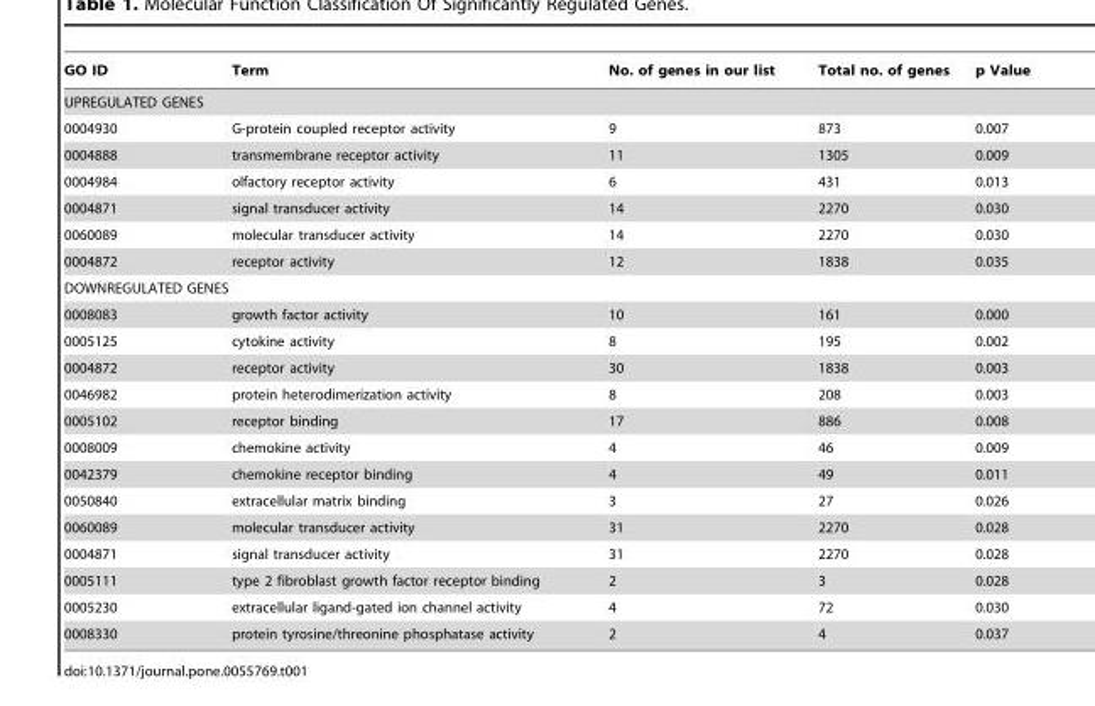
<table><thead><tr><td>GO ID</td><td>Term</td><td>No. of genes in our list</td><td>Total no. of genes</td><td>p Value</td></tr></thead><tbody><tr><td colspan="5">UPREGULATED GENES</td></tr><tr><td>0004930</td><td>G-protein coupled receptor activity</td><td>9</td><td>873</td><td>0.007</td></tr><tr><td>0004888</td><td>transmembrane receptor activity</td><td>11</td><td>1305</td><td>0.009</td></tr><tr><td>0004984</td><td>olfactory receptor activity</td><td>6</td><td>431</td><td>0.013</td></tr><tr><td>0004871</td><td>signal transducer activity</td><td>14</td><td>2270</td><td>0.030</td></tr><tr><td>0060089</td><td>molecular transducer activity</td><td>14</td><td>2270</td><td>0.030</td></tr><tr><td>0004872</td><td>receptor activity</td><td>12</td><td>1838</td><td>0.035</td></tr><tr><td colspan="5">DOWNREGULATED GENES</td></tr><tr><td>0008083</td><td>growth factor activity</td><td>10</td><td>161</td><td>0.000</td></tr><tr><td>0005125</td><td>cytokine activity</td><td>8</td><td>195</td><td>0.002</td></tr><tr><td>0004872</td><td>receptor activity</td><td>30</td><td>1838</td><td>0.003</td></tr><tr><td>0046982</td><td>protein heterodimerization activity</td><td>8</td><td>208</td><td>0.003</td></tr><tr><td>0005102</td><td>receptor binding</td><td>17</td><td>886</td><td>0.008</td></tr><tr><td>0008009</td><td>chemokine activity</td><td>4</td><td>46</td><td>0.009</td></tr><tr><td>0042379</td><td>chemokine receptor binding</td><td>4</td><td>49</td><td>0.011</td></tr><tr><td>0050840</td><td>extracellular matrix binding</td><td>3</td><td>27</td><td>0.026</td></tr><tr><td>0060089</td><td>molecular transducer activity</td><td>31</td><td>2270</td><td>0.028</td></tr><tr><td>0004871</td><td>signal transducer activity</td><td>31</td><td>2270</td><td>0.028</td></tr><tr><td>0005111</td><td>type 2 fibroblast growth factor receptor binding</td><td>2</td><td>3</td><td>0.028</td></tr><tr><td>0005230</td><td>extracellular ligand-gated ion channel activity</td><td>4</td><td>72</td><td>0.030</td></tr><tr><td>0008330</td><td>protein tyrosine/threonine phosphatase activity</td><td>2</td><td>4</td><td>0.037</td></tr></tbody></table>